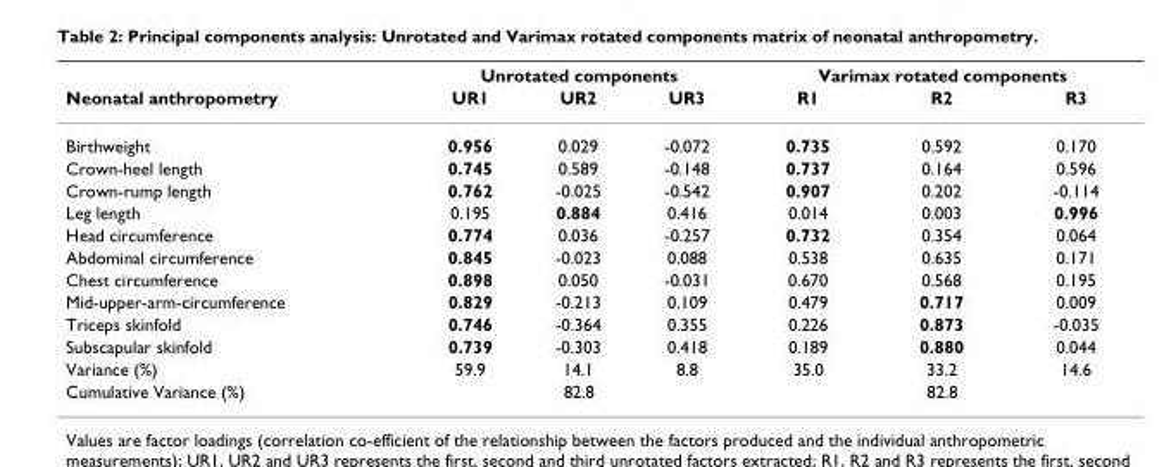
<table><thead><tr><td rowspan="2">Neonatal anthropometry</td><td colspan="3">Unrotated components</td><td colspan="3">Varimax rotated components</td></tr><tr><td>UR1</td><td>UR2</td><td>UR3</td><td>R1</td><td>R2</td><td>R3</td></tr></thead><tbody><tr><td>Birthweight</td><td>0.956</td><td>0.029</td><td>-0.072</td><td>0.735</td><td>0.592</td><td>0.170</td></tr><tr><td>Crown-heel length</td><td>0.745</td><td>0.589</td><td>-0.148</td><td>0.737</td><td>0.164</td><td>0.596</td></tr><tr><td>Crown-rump length</td><td>0.762</td><td>-0.025</td><td>-0.542</td><td>0.907</td><td>0.202</td><td>-0.114</td></tr><tr><td>Leg length</td><td>0.195</td><td>0.884</td><td>0.416</td><td>0.014</td><td>0.003</td><td>0.996</td></tr><tr><td>Head circumference</td><td>0.774</td><td>0.036</td><td>-0.257</td><td>0.732</td><td>0.354</td><td>0.064</td></tr><tr><td>Abdominal circumference</td><td>0.845</td><td>-0.023</td><td>0.088</td><td>0.538</td><td>0.635</td><td>0.171</td></tr><tr><td>Chest circumference</td><td>0.898</td><td>0.050</td><td>-0.031</td><td>0.670</td><td>0.568</td><td>0.195</td></tr><tr><td>Mid-upper-arm-circumference</td><td>0.829</td><td>-0.213</td><td>0.109</td><td>0.479</td><td>0.717</td><td>0.009</td></tr><tr><td>Triceps skinfold</td><td>0.746</td><td>-0.364</td><td>0.355</td><td>0.226</td><td>0.873</td><td>-0.035</td></tr><tr><td>Subscapular skinfold</td><td>0.739</td><td>-0.303</td><td>0.418</td><td>0.189</td><td>0.880</td><td>0.044</td></tr><tr><td>Variance (%)</td><td>59.9</td><td>14.1</td><td>8.8</td><td>35.0</td><td>33.2</td><td>14.6</td></tr><tr><td>Cumulative Variance (%)</td><td colspan="3">82.8</td><td colspan="3">82.8</td></tr></tbody></table>